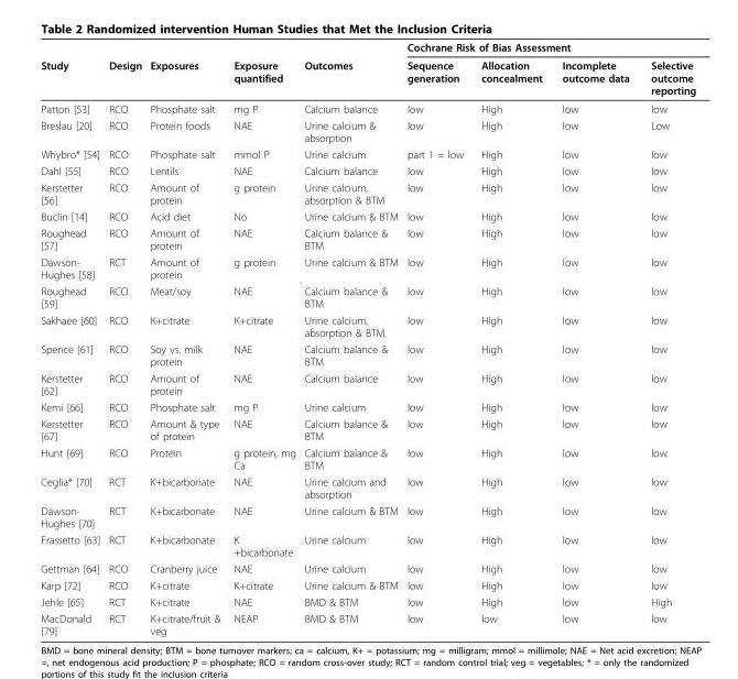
<table><thead><tr><td rowspan="2">Study</td><td rowspan="2">Design</td><td rowspan="2">Exposures</td><td rowspan="2">Exposure quantified</td><td rowspan="2">Outcomes</td><td colspan="4">Cochrane Risk of Bias Assessment</td></tr><tr><td>Sequence generation</td><td>Allocation concealment</td><td>Incomplete outcome data</td><td>Selective outcome reporting</td></tr></thead><tbody><tr><td>Patton [53]</td><td>RCO</td><td>Phosphate salt</td><td>mg P</td><td>Calcium balance</td><td>low</td><td>High</td><td>low</td><td>low</td></tr><tr><td>Breslau [20]</td><td>RCO</td><td>Protein foods</td><td>NAE</td><td>Urine calcium &amp; absorption</td><td>low</td><td>High</td><td>low</td><td>Low</td></tr><tr><td>Whybro* [54]</td><td>RCO</td><td>Phosphate salt</td><td>mmol P</td><td>Urine calcium</td><td>part 1 = low</td><td>High</td><td>low</td><td>low</td></tr><tr><td>Dahl [55]</td><td>RCO</td><td>Lentils</td><td>NAE</td><td>Calcium balance</td><td>low</td><td>High</td><td>low</td><td>low</td></tr><tr><td>Kerstetter [56]</td><td>RCO</td><td>Amount of protein</td><td>g protein</td><td>Urine calcium, absorption &amp; BTM</td><td>low</td><td>High</td><td>low</td><td>low</td></tr><tr><td>Buclin [14]</td><td>RCO</td><td>Acid diet</td><td>No</td><td>Urine calcium &amp; BTM</td><td>low</td><td>High</td><td>low</td><td>low</td></tr><tr><td>Roughead [57]</td><td>RCO</td><td>Amount of protein</td><td>NAE</td><td>Calcium balance &amp; BTM</td><td>low</td><td>High</td><td>low</td><td>low</td></tr><tr><td>Dawson- Hughes [58]</td><td>RCT</td><td>Amount of protein</td><td>g protein</td><td>Urine calcium &amp; BTM</td><td>low</td><td>High</td><td>low</td><td>low</td></tr><tr><td>Roughead [59]</td><td>RCO</td><td>Meat/soy</td><td>NAE</td><td>Calcium balance &amp; BTM</td><td>low</td><td>High</td><td>low</td><td>low</td></tr><tr><td>Sakhaee [60]</td><td>RCO</td><td>K+citrate</td><td>K+citrate</td><td>Urine calcium, absorption &amp; BTM</td><td>low</td><td>High</td><td>low</td><td>low</td></tr><tr><td>Spence [61]</td><td>RCO</td><td>Soy vs. milk protein</td><td>NAE</td><td>Calcium balance &amp; BTM</td><td>low</td><td>High</td><td>low</td><td>low</td></tr><tr><td>Kerstetter [62]</td><td>RCO</td><td>Amount of protein</td><td>NAE</td><td>Calcium balance</td><td>low</td><td>High</td><td>low</td><td>low</td></tr><tr><td>Kemi [66]</td><td>RCO</td><td>Phosphate salt</td><td>mg P</td><td>Urine calcium</td><td>low</td><td>High</td><td>low</td><td>low</td></tr><tr><td>Kerstetter [67]</td><td>RCO</td><td>Amount &amp; type of protein</td><td>NAE</td><td>Calcium balance &amp; BTM</td><td>low</td><td>High</td><td>low</td><td>low</td></tr><tr><td>Hunt [69]</td><td>RCO</td><td>Protein</td><td>g protein, mg Ca</td><td>Calcium balance &amp; BTM</td><td>low</td><td>High</td><td>low</td><td>low</td></tr><tr><td>Ceglia* [70]</td><td>RCT</td><td>K+bicarbonate</td><td>NAE</td><td>Urine calcium and absorption</td><td>low</td><td>High</td><td>low</td><td>low</td></tr><tr><td>Dawson- Hughes [70]</td><td>RCT</td><td>K+bicarbonate</td><td>NAE</td><td>Urine calcium &amp; BTM</td><td>low</td><td>High</td><td>low</td><td>low</td></tr><tr><td>Frassetto [63]</td><td>RCT</td><td>K+bicarbonate</td><td>K +bicarbonate</td><td>Urine calcium</td><td>low</td><td>High</td><td>low</td><td>low</td></tr><tr><td>Gettman [64]</td><td>RCO</td><td>Cranberry juice</td><td>NAE</td><td>Urine calcium</td><td>low</td><td>High</td><td>low</td><td>low</td></tr><tr><td>Karp [72]</td><td>RCO</td><td>K+citrate</td><td>K+citrate</td><td>Urine calcium &amp; BTM</td><td>low</td><td>High</td><td>low</td><td>low</td></tr><tr><td>Jehle [65]</td><td>RCT</td><td>K+citrate</td><td>NAE</td><td>BMD &amp; BTM</td><td>low</td><td>High</td><td>low</td><td>High</td></tr><tr><td>MacDonald [79]</td><td>RCT</td><td>K+citrate/fruit &amp; veg</td><td>NEAP</td><td>BMD &amp; BTM</td><td>low</td><td>low</td><td>low</td><td>low</td></tr></tbody></table>